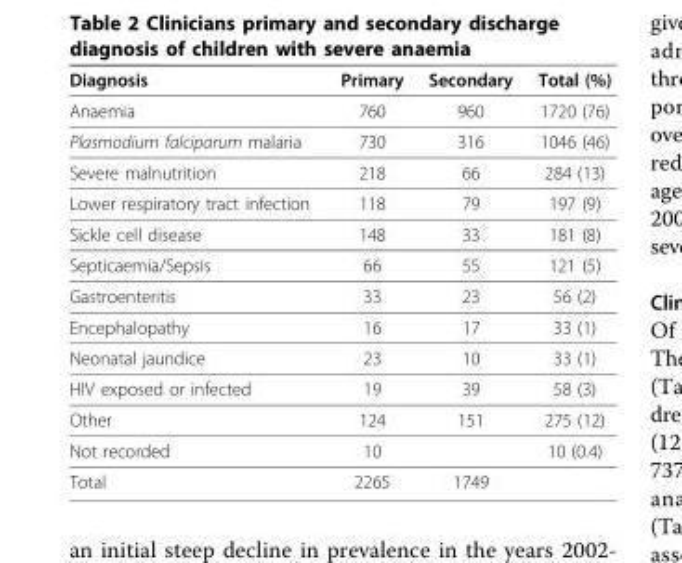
<table><thead><tr><td>Diagnosis</td><td>Primary</td><td>Secondary</td><td>Total (%)</td></tr></thead><tbody><tr><td>Anaemia</td><td>760</td><td>960</td><td>1720 (76)</td></tr><tr><td>Plasmodium falciparum malaria</td><td>730</td><td>316</td><td>1046 (46)</td></tr><tr><td>Severe malnutrition</td><td>218</td><td>66</td><td>284 (13)</td></tr><tr><td>Lower respiratory tract infection</td><td>118</td><td>79</td><td>197 (9)</td></tr><tr><td>Sickle cell disease</td><td>148</td><td>33</td><td>181 (8)</td></tr><tr><td>Septicaemia/Sepsis</td><td>66</td><td>55</td><td>121 (5)</td></tr><tr><td>Gastroenteritis</td><td>33</td><td>23</td><td>56 (2)</td></tr><tr><td>Encephalopathy</td><td>16</td><td>17</td><td>33 (1)</td></tr><tr><td>Neonatal jaundice</td><td>23</td><td>10</td><td>33 (1)</td></tr><tr><td>HIV exposed or infected</td><td>19</td><td>39</td><td>58 (3)</td></tr><tr><td>Other</td><td>124</td><td>151</td><td>275 (12)</td></tr><tr><td>Not recorded</td><td>10</td><td></td><td>10 (0.4)</td></tr><tr><td>Total</td><td>2265</td><td>1749</td><td></td></tr></tbody></table>